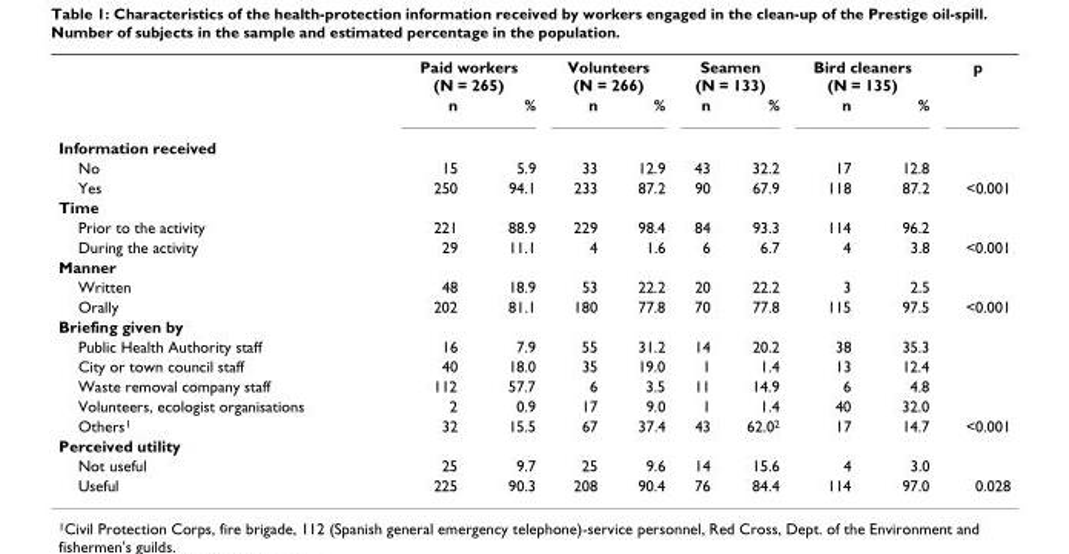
<table><thead><tr><td rowspan="2"></td><td colspan="2">Paid workers (N = 265)</td><td colspan="2">Volunteers (N = 266)</td><td colspan="2">Seamen (N = 133)</td><td colspan="2">Bird cleaners (N = 135)</td><td rowspan="2">p</td></tr><tr><td>n</td><td>%</td><td>n</td><td>%</td><td>n</td><td>%</td><td>n</td><td>%</td></tr></thead><tbody><tr><td colspan="10">Information received</td></tr><tr><td>No</td><td>15</td><td>5.9</td><td>33</td><td>12.9</td><td>43</td><td>32.2</td><td>17</td><td>12.8</td><td></td></tr><tr><td>Yes</td><td>250</td><td>94.1</td><td>233</td><td>87.2</td><td>90</td><td>67.9</td><td>118</td><td>87.2</td><td>&lt;0.001</td></tr><tr><td colspan="10">Time</td></tr><tr><td>Prior to the activity</td><td>221</td><td>88.9</td><td>229</td><td>98.4</td><td>84</td><td>93.3</td><td>114</td><td>96.2</td><td></td></tr><tr><td>During the activity</td><td>29</td><td>11.1</td><td>4</td><td>1.6</td><td>6</td><td>6.7</td><td>4</td><td>3.8</td><td>&lt;0.001</td></tr><tr><td colspan="10">Manner</td></tr><tr><td>Written</td><td>48</td><td>18.9</td><td>53</td><td>22.2</td><td>20</td><td>22.2</td><td>3</td><td>2.5</td><td></td></tr><tr><td>Orally</td><td>202</td><td>81.1</td><td>180</td><td>77.8</td><td>70</td><td>77.8</td><td>115</td><td>97.5</td><td>&lt;0.001</td></tr><tr><td colspan="10">Briefing given by</td></tr><tr><td>Public Health Authority staff</td><td>16</td><td>7.9</td><td>55</td><td>31.2</td><td>14</td><td>20.2</td><td>38</td><td>35.3</td><td></td></tr><tr><td>City or town council staff</td><td>40</td><td>18.0</td><td>35</td><td>19.0</td><td>1</td><td>1.4</td><td>13</td><td>12.4</td><td></td></tr><tr><td>Waste removal company staff</td><td>112</td><td>57.7</td><td>6</td><td>3.5</td><td>11</td><td>14.9</td><td>6</td><td>4.8</td><td></td></tr><tr><td>Volunteers, ecologist organisations</td><td>2</td><td>0.9</td><td>17</td><td>9.0</td><td>1</td><td>1.4</td><td>40</td><td>32.0</td><td></td></tr><tr><td>Others1</td><td>32</td><td>15.5</td><td>67</td><td>37.4</td><td>43</td><td>62.02</td><td>17</td><td>14.7</td><td>&lt;0.001</td></tr><tr><td colspan="10">Perceived utility</td></tr><tr><td>Not useful</td><td>25</td><td>9.7</td><td>25</td><td>9.6</td><td>14</td><td>15.6</td><td>4</td><td>3.0</td><td></td></tr><tr><td>Useful</td><td>225</td><td>90.3</td><td>208</td><td>90.4</td><td>76</td><td>84.4</td><td>114</td><td>97.0</td><td>0.028</td></tr></tbody></table>